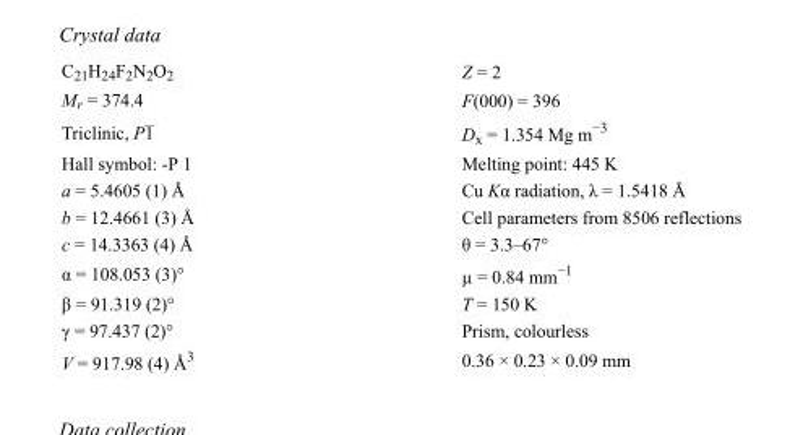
<table><tbody><tr><td>C<sub>21</sub>H<sub>24</sub>F<sub>2</sub>N<sub>2</sub>O<sub>2</sub></td><td>Z = 2</td></tr><tr><td>M<sub>r</sub> = 374.4</td><td>F(000) = 396</td></tr><tr><td>Triclinic, P1</td><td>D<sub>x</sub> = 1.354 Mg m<sup>−3</sup></td></tr><tr><td>Hall symbol: -P 1</td><td>Melting point: 445 K</td></tr><tr><td>a = 5.4605 (1) Å</td><td>Cu Kα radiation, λ = 1.5418 Å</td></tr><tr><td>b = 12.4661 (3) Å</td><td>Cell parameters from 8506 reflections</td></tr><tr><td>c = 14.3363 (4) Å</td><td>θ = 3.3–67°</td></tr><tr><td>α = 108.053 (3)°</td><td>µ = 0.84 mm<sup>−1</sup></td></tr><tr><td>β = 91.319 (2)°</td><td>T = 150 K</td></tr><tr><td>γ = 97.437 (2)°</td><td>Prism, colourless</td></tr><tr><td>V = 917.98 (4) Å<sup>3</sup></td><td>0.36 × 0.23 × 0.09 mm</td></tr></tbody></table>